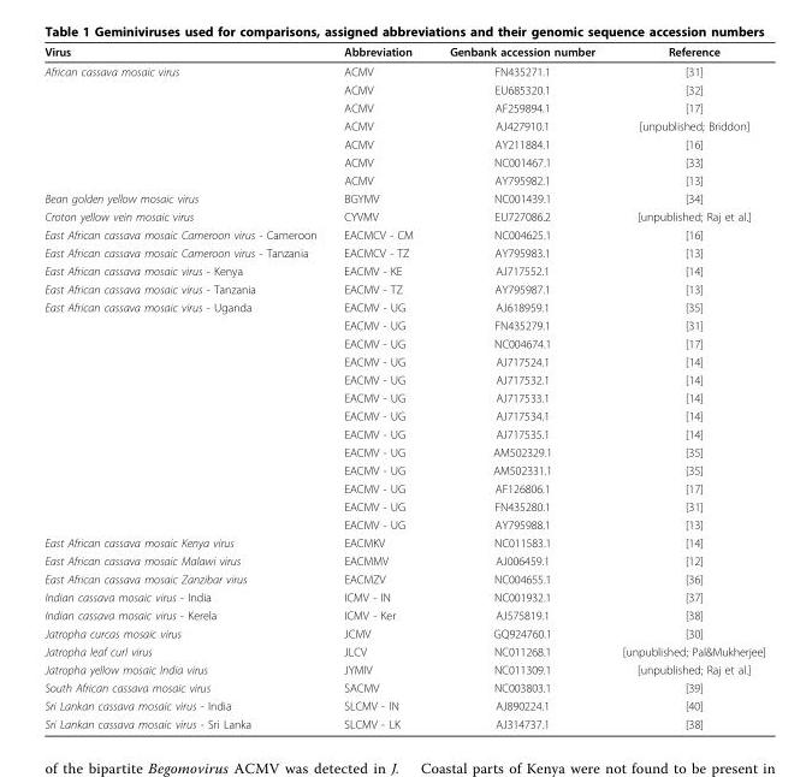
<table><thead><tr><td>Virus</td><td>Abbreviation</td><td>Genbank accession number</td><td>Reference</td></tr></thead><tbody><tr><td rowspan="7">African cassava mosaic virus</td><td>ACMV</td><td>FN435271.1</td><td>[31]</td></tr><tr><td>ACMV</td><td>EU685320.1</td><td>[32]</td></tr><tr><td>ACMV</td><td>AF259894.1</td><td>[17]</td></tr><tr><td>ACMV</td><td>AJ427910.1</td><td>[unpublished; Briddon]</td></tr><tr><td>ACMV</td><td>AY211884.1</td><td>[16]</td></tr><tr><td>ACMV</td><td>NC001467.1</td><td>[33]</td></tr><tr><td>ACMV</td><td>AY795982.1</td><td>[13]</td></tr><tr><td>Bean golden yellow mosaic virus</td><td>BGYMV</td><td>NC001439.1</td><td>[34]</td></tr><tr><td>Croton yellow vein mosaic virus</td><td>CYVMV</td><td>EU727086.2</td><td>[unpublished; Raj et al.]</td></tr><tr><td>East African cassava mosaic Cameroon virus - Cameroon</td><td>EACMCV - CM</td><td>NC004625.1</td><td>[16]</td></tr><tr><td>East African cassava mosaic Cameroon virus - Tanzania</td><td>EACMCV - TZ</td><td>AY795983.1</td><td>[13]</td></tr><tr><td>East African cassava mosaic virus - Kenya</td><td>EACMV - KE</td><td>AJ717552.1</td><td>[14]</td></tr><tr><td>East African cassava mosaic virus - Tanzania</td><td>EACMV - TZ</td><td>AY795987.1</td><td>[13]</td></tr><tr><td rowspan="13">East African cassava mosaic virus - Uganda</td><td>EACMV - UG</td><td>AJ618959.1</td><td>[35]</td></tr><tr><td>EACMV - UG</td><td>FN435279.1</td><td>[31]</td></tr><tr><td>EACMV - UG</td><td>NC004674.1</td><td>[17]</td></tr><tr><td>EACMV - UG</td><td>AJ717524.1</td><td>[14]</td></tr><tr><td>EACMV - UG</td><td>AJ717532.1</td><td>[14]</td></tr><tr><td>EACMV - UG</td><td>AJ717533.1</td><td>[14]</td></tr><tr><td>EACMV - UG</td><td>AJ717534.1</td><td>[14]</td></tr><tr><td>EACMV - UG</td><td>AJ717535.1</td><td>[14]</td></tr><tr><td>EACMV - UG</td><td>AM502329.1</td><td>[35]</td></tr><tr><td>EACMV - UG</td><td>AM502331.1</td><td>[35]</td></tr><tr><td>EACMV - UG</td><td>AF126806.1</td><td>[17]</td></tr><tr><td>EACMV - UG</td><td>FN435280.1</td><td>[31]</td></tr><tr><td>EACMV - UG</td><td>AY795988.1</td><td>[13]</td></tr><tr><td>East African cassava mosaic Kenya virus</td><td>EACMKV</td><td>NC011583.1</td><td>[14]</td></tr><tr><td>East African cassava mosaic Malawi virus</td><td>EACMMV</td><td>AJ006459.1</td><td>[12]</td></tr><tr><td>East African cassava mosaic Zanzibar virus</td><td>EACMZV</td><td>NC004655.1</td><td>[36]</td></tr><tr><td>Indian cassava mosaic virus - India</td><td>ICMV - IN</td><td>NC001932.1</td><td>[37]</td></tr><tr><td>Indian cassava mosaic virus - Kerela</td><td>ICMV - Ker</td><td>AJ575819.1</td><td>[38]</td></tr><tr><td>Jatropha curcas mosaic virus</td><td>JCMV</td><td>GQ924760.1</td><td>[30]</td></tr><tr><td>Jatropha leaf curl virus</td><td>JLCV</td><td>NC011268.1</td><td>[unpublished; Pal&amp;Mukherjee]</td></tr><tr><td>Jatropha yellow mosaic India virus</td><td>JYMIV</td><td>NC011309.1</td><td>[unpublished; Raj et al.]</td></tr><tr><td>South African cassava mosaic virus</td><td>SACMV</td><td>NC003803.1</td><td>[39]</td></tr><tr><td>Sri Lankan cassava mosaic virus - India</td><td>SLCMV - IN</td><td>AJ890224.1</td><td>[40]</td></tr><tr><td>Sri Lankan cassava mosaic virus - Sri Lanka</td><td>SLCMV - LK</td><td>AJ314737.1</td><td>[38]</td></tr></tbody></table>